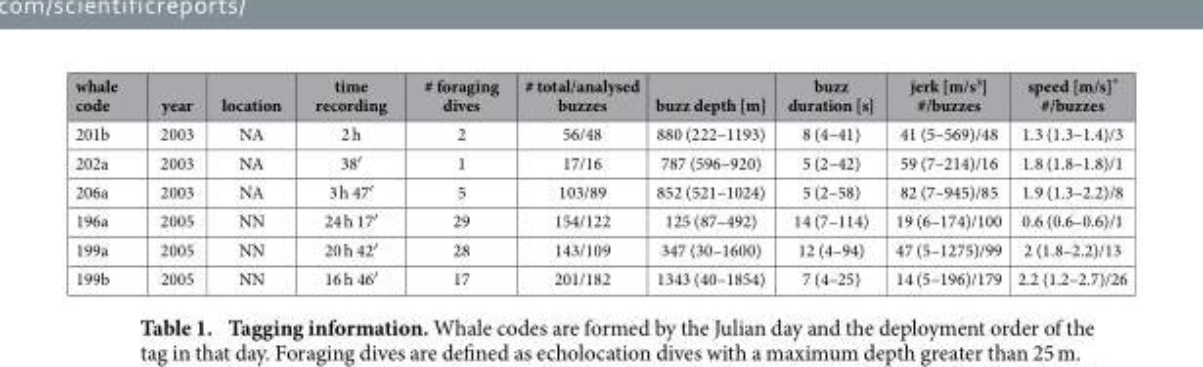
<table><thead><tr><td>whale code</td><td>year</td><td>location</td><td>time recording</td><td># foraging dives</td><td># total/analysed buzzes</td><td>buzz depth [m]</td><td>buzz duration [s]</td><td>jerk [m/s<sup>3</sup>] #/buzzes</td><td>speed [m/s]* #/buzzes</td></tr></thead><tbody><tr><td>201b</td><td>2003</td><td>NA</td><td>2 h</td><td>2</td><td>56/48</td><td>880 (222–1193)</td><td>8 (4–41)</td><td>41 (5–569)/48</td><td>1.3 (1.3–1.4)/3</td></tr><tr><td>202a</td><td>2003</td><td>NA</td><td>38′</td><td>1</td><td>17/16</td><td>787 (596–920)</td><td>5 (2–42)</td><td>59 (7–214)/16</td><td>1.8 (1.8–1.8)/1</td></tr><tr><td>206a</td><td>2003</td><td>NA</td><td>3 h 47′</td><td>5</td><td>103/89</td><td>852 (521–1024)</td><td>5 (2–58)</td><td>82 (7–945)/85</td><td>1.9 (1.3–2.2)/8</td></tr><tr><td>196a</td><td>2005</td><td>NN</td><td>24 h 17′</td><td>29</td><td>154/122</td><td>125 (87–492)</td><td>14 (7–114)</td><td>19 (6–174)/100</td><td>0.6 (0.6–0.6)/1</td></tr><tr><td>199a</td><td>2005</td><td>NN</td><td>20 h 42′</td><td>28</td><td>143/109</td><td>347 (30–1600)</td><td>12 (4–94)</td><td>47 (5–1275)/99</td><td>2 (1.8–2.2)/13</td></tr><tr><td>199b</td><td>2005</td><td>NN</td><td>16 h 46′</td><td>17</td><td>201/182</td><td>1343 (40–1854)</td><td>7 (4–25)</td><td>14 (5–196)/179</td><td>2.2 (1.2–2.7)/26</td></tr></tbody></table>